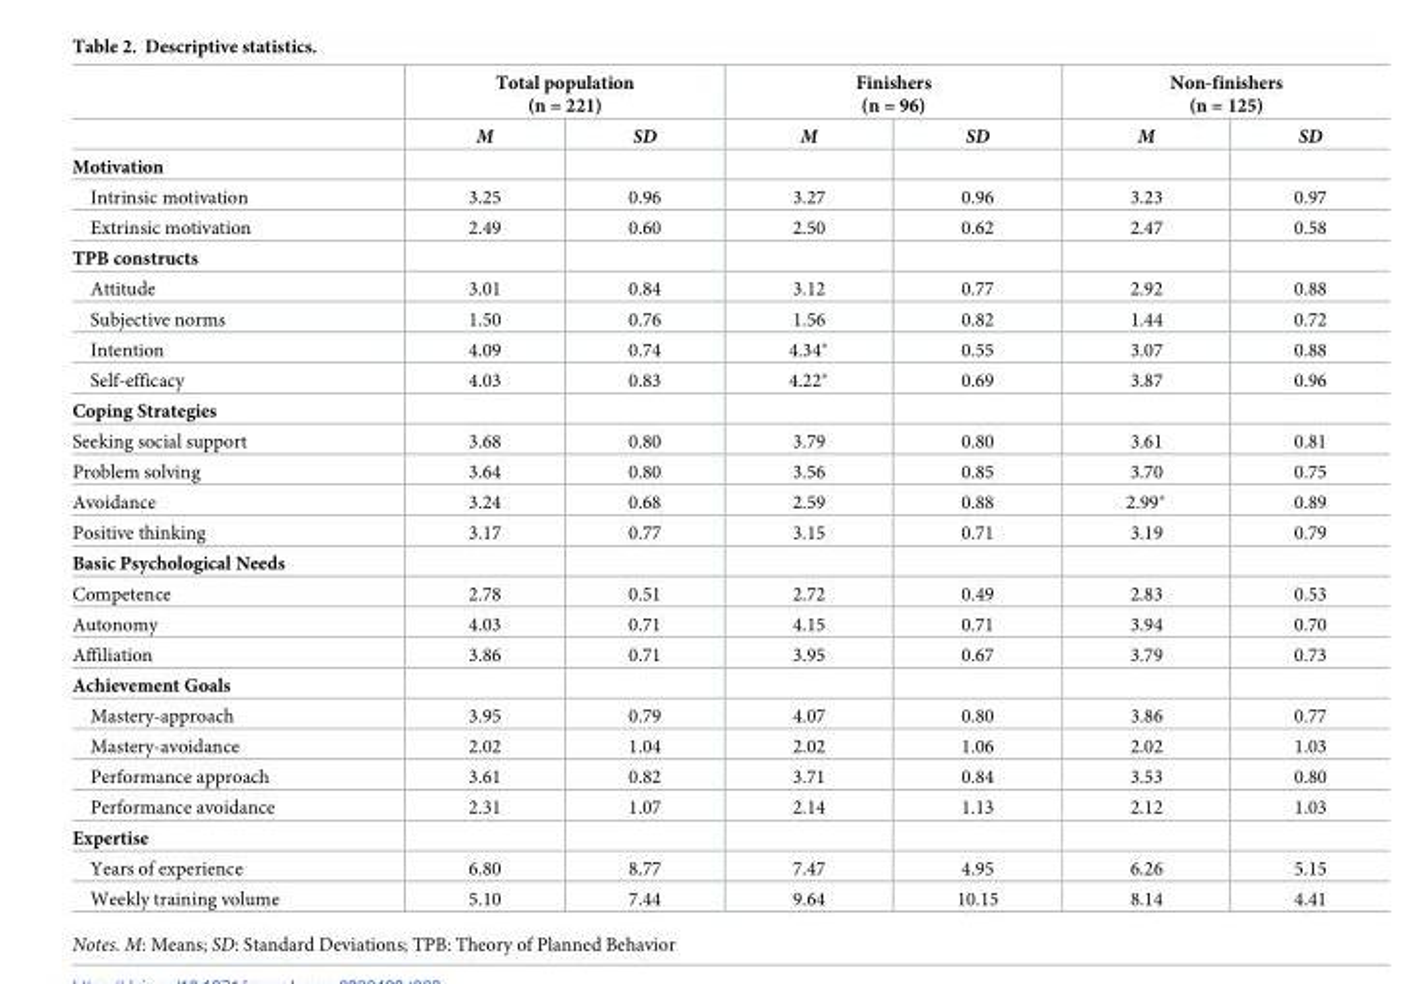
<table><thead><tr><td rowspan="2"></td><td colspan="2">Total population (n = 221)</td><td colspan="2">Finishers (n = 96)</td><td colspan="2">Non-finishers (n = 125)</td></tr><tr><td>M</td><td>SD</td><td>M</td><td>SD</td><td>M</td><td>SD</td></tr></thead><tbody><tr><td colspan="7">Motivation</td></tr><tr><td>Intrinsic motivation</td><td>3.25</td><td>0.96</td><td>3.27</td><td>0.96</td><td>3.23</td><td>0.97</td></tr><tr><td>Extrinsic motivation</td><td>2.49</td><td>0.60</td><td>2.50</td><td>0.62</td><td>2.47</td><td>0.58</td></tr><tr><td colspan="7">TPB constructs</td></tr><tr><td>Attitude</td><td>3.01</td><td>0.84</td><td>3.12</td><td>0.77</td><td>2.92</td><td>0.88</td></tr><tr><td>Subjective norms</td><td>1.50</td><td>0.76</td><td>1.56</td><td>0.82</td><td>1.44</td><td>0.72</td></tr><tr><td>Intention</td><td>4.09</td><td>0.74</td><td>4.34*</td><td>0.55</td><td>3.07</td><td>0.88</td></tr><tr><td>Self-efficacy</td><td>4.03</td><td>0.83</td><td>4.22*</td><td>0.69</td><td>3.87</td><td>0.96</td></tr><tr><td colspan="7">Coping Strategies</td></tr><tr><td>Seeking social support</td><td>3.68</td><td>0.80</td><td>3.79</td><td>0.80</td><td>3.61</td><td>0.81</td></tr><tr><td>Problem solving</td><td>3.64</td><td>0.80</td><td>3.56</td><td>0.85</td><td>3.70</td><td>0.75</td></tr><tr><td>Avoidance</td><td>3.24</td><td>0.68</td><td>2.59</td><td>0.88</td><td>2.99*</td><td>0.89</td></tr><tr><td>Positive thinking</td><td>3.17</td><td>0.77</td><td>3.15</td><td>0.71</td><td>3.19</td><td>0.79</td></tr><tr><td colspan="7">Basic Psychological Needs</td></tr><tr><td>Competence</td><td>2.78</td><td>0.51</td><td>2.72</td><td>0.49</td><td>2.83</td><td>0.53</td></tr><tr><td>Autonomy</td><td>4.03</td><td>0.71</td><td>4.15</td><td>0.71</td><td>3.94</td><td>0.70</td></tr><tr><td>Affiliation</td><td>3.86</td><td>0.71</td><td>3.95</td><td>0.67</td><td>3.79</td><td>0.73</td></tr><tr><td colspan="7">Achievement Goals</td></tr><tr><td>Mastery-approach</td><td>3.95</td><td>0.79</td><td>4.07</td><td>0.80</td><td>3.86</td><td>0.77</td></tr><tr><td>Mastery-avoidance</td><td>2.02</td><td>1.04</td><td>2.02</td><td>1.06</td><td>2.02</td><td>1.03</td></tr><tr><td>Performance approach</td><td>3.61</td><td>0.82</td><td>3.71</td><td>0.84</td><td>3.53</td><td>0.80</td></tr><tr><td>Performance avoidance</td><td>2.31</td><td>1.07</td><td>2.14</td><td>1.13</td><td>2.12</td><td>1.03</td></tr><tr><td colspan="7">Expertise</td></tr><tr><td>Years of experience</td><td>6.80</td><td>8.77</td><td>7.47</td><td>4.95</td><td>6.26</td><td>5.15</td></tr><tr><td>Weekly training volume</td><td>5.10</td><td>7.44</td><td>9.64</td><td>10.15</td><td>8.14</td><td>4.41</td></tr></tbody></table>